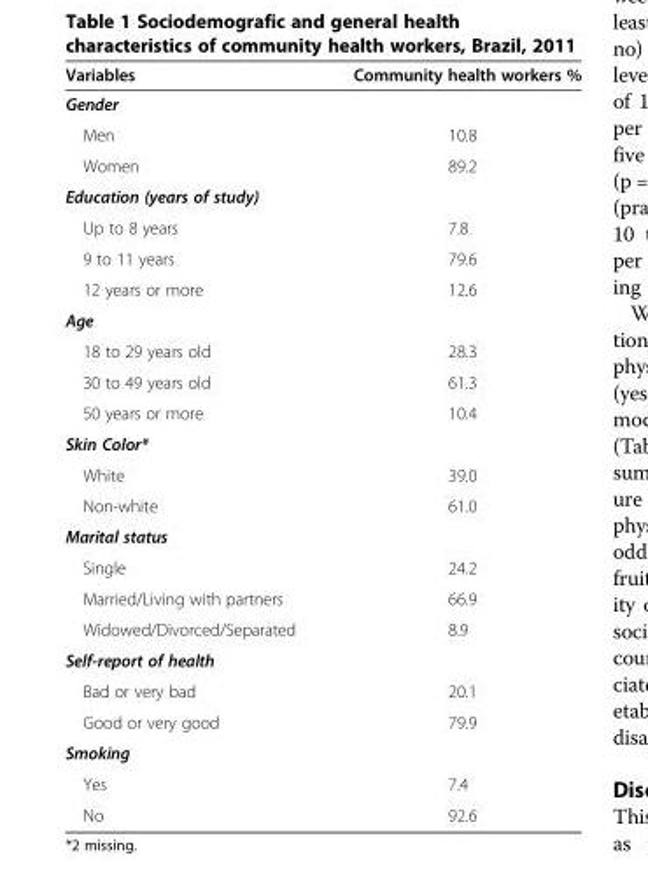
<table><thead><tr><td>Variables</td><td>Community health workers %</td></tr></thead><tbody><tr><td colspan="2">Gender</td></tr><tr><td>Men</td><td>10.8</td></tr><tr><td>Women</td><td>89.2</td></tr><tr><td colspan="2">Education (years of study)</td></tr><tr><td>Up to 8 years</td><td>7.8</td></tr><tr><td>9 to 11 years</td><td>79.6</td></tr><tr><td>12 years or more</td><td>12.6</td></tr><tr><td colspan="2">Age</td></tr><tr><td>18 to 29 years old</td><td>28.3</td></tr><tr><td>30 to 49 years old</td><td>61.3</td></tr><tr><td>50 years or more</td><td>10.4</td></tr><tr><td colspan="2">Skin Color*</td></tr><tr><td>White</td><td>39.0</td></tr><tr><td>Non-white</td><td>61.0</td></tr><tr><td colspan="2">Marital status</td></tr><tr><td>Single</td><td>24.2</td></tr><tr><td>Married/Living with partners</td><td>66.9</td></tr><tr><td>Widowed/Divorced/Separated</td><td>8.9</td></tr><tr><td colspan="2">Self-report of health</td></tr><tr><td>Bad or very bad</td><td>20.1</td></tr><tr><td>Good or very good</td><td>79.9</td></tr><tr><td colspan="2">Smoking</td></tr><tr><td>Yes</td><td>7.4</td></tr><tr><td>No</td><td>92.6</td></tr></tbody></table>